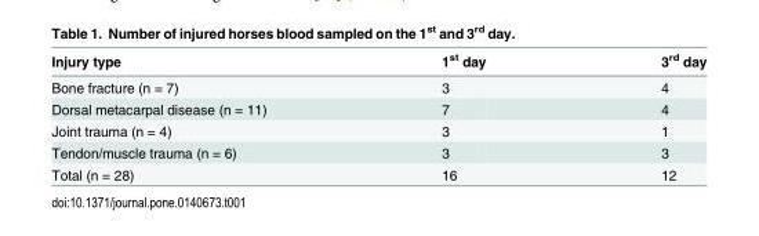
<table><thead><tr><td>Injury type</td><td>1<sup>st</sup> day</td><td>3<sup>rd</sup> day</td></tr></thead><tbody><tr><td>Bone fracture (n = 7)</td><td>3</td><td>4</td></tr><tr><td>Dorsal metacarpal disease (n = 11)</td><td>7</td><td>4</td></tr><tr><td>Joint trauma (n = 4)</td><td>3</td><td>1</td></tr><tr><td>Tendon/muscle trauma (n = 6)</td><td>3</td><td>3</td></tr><tr><td>Total (n = 28)</td><td>16</td><td>12</td></tr></tbody></table>